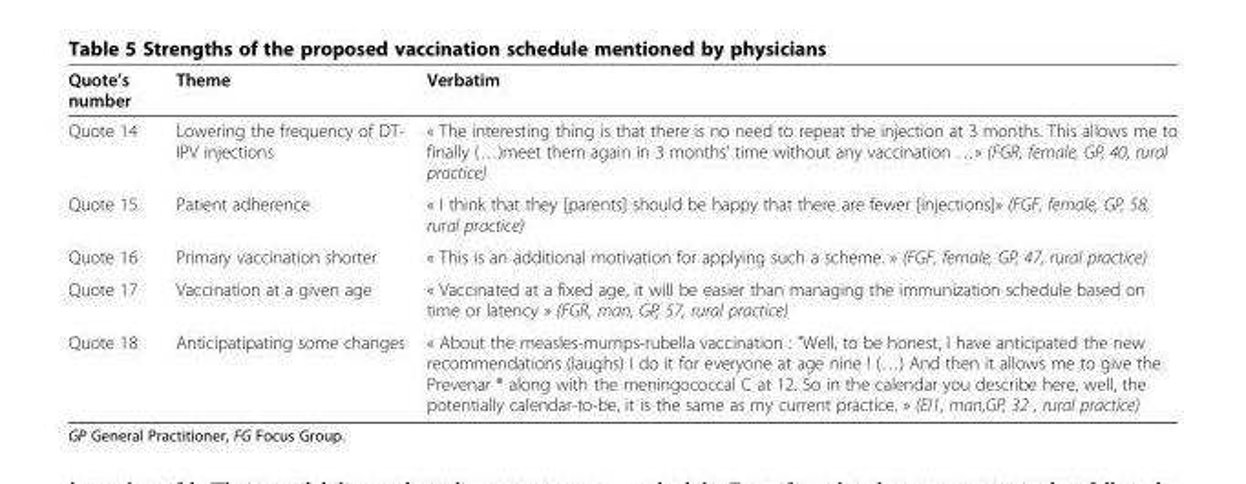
<table><thead><tr><td>Quote’s number</td><td>Theme</td><td>Verbatim</td></tr></thead><tbody><tr><td>Quote 14</td><td>Lowering the frequency of DT- IPV injections</td><td>« The interesting thing is that there is no need to repeat the injection at 3 months. This allows me to finally (…)meet them again in 3 months’ time without any vaccination …» (FGR, female, GP, 40, rural practice)</td></tr><tr><td>Quote 15</td><td>Patient adherence</td><td>« I think that they [parents] should be happy that there are fewer [injections]» (FGF, female, GP, 58, rural practice)</td></tr><tr><td>Quote 16</td><td>Primary vaccination shorter</td><td>« This is an additional motivation for applying such a scheme. » (FGF, female, GP, 47, rural practice)</td></tr><tr><td>Quote 17</td><td>Vaccination at a given age</td><td>« Vaccinated at a fixed age, it will be easier than managing the immunization schedule based on time or latency » (FGR, man, GP, 57, rural practice)</td></tr><tr><td>Quote 18</td><td>Anticipatipating some changes</td><td>« About the measles-mumps-rubella vaccination : &quot;Well, to be honest, I have anticipated the new recommendations (laughs) I do it for everyone at age nine ! (…) And then it allows me to give the Prevenar ® along with the meningococcal C at 12. So in the calendar you describe here, well, the potentially calendar-to-be, it is the same as my current practice. » (EI1, man,GP, 32 , rural practice)</td></tr></tbody></table>